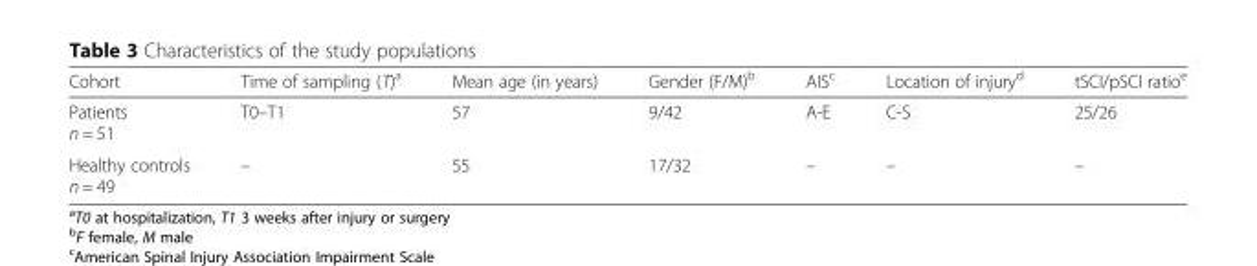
<table><thead><tr><td>Cohort</td><td>Time of sampling (T)<sup>a</sup></td><td>Mean age (in years)</td><td>Gender (F/M)<sup>b</sup></td><td>AIS<sup>c</sup></td><td>Location of injury<sup>d</sup></td><td>tSCI/pSCI ratio<sup>e</sup></td></tr></thead><tbody><tr><td>Patients n = 51</td><td>T0–T1</td><td>57</td><td>9/42</td><td>A-E</td><td>C-S</td><td>25/26</td></tr><tr><td>Healthy controls n = 49</td><td>–</td><td>55</td><td>17/32</td><td>–</td><td>–</td><td>–</td></tr></tbody></table>